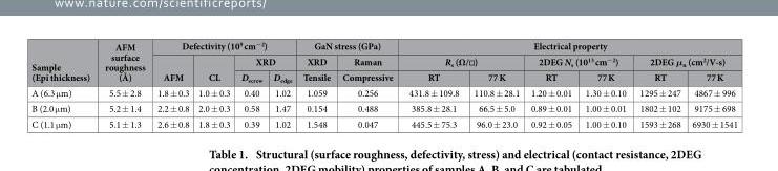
<table><thead><tr><td rowspan="3">Sample (Epi thickness)</td><td rowspan="3">AFM surface roughness (Å)</td><td colspan="4">Defectivity (10<sup>9</sup> cm<sup>−2</sup>)</td><td colspan="2">GaN stress (GPa)</td><td colspan="6">Electrical property</td></tr><tr><td rowspan="2">AFM</td><td rowspan="2">CL</td><td colspan="2">XRD</td><td rowspan="2">XRD Tensile</td><td rowspan="2">Raman Compressive</td><td colspan="2">R<sub>s</sub> (Ω/◽)</td><td colspan="2">2DEG N<sub>s</sub> (10<sup>13</sup> cm<sup>−2</sup>)</td><td colspan="2">2DEG μ<sub>n</sub> (cm<sup>2</sup>/V-s)</td></tr><tr><td>D<sub>screw</sub></td><td>D<sub>edge</sub></td><td>RT</td><td>77 K</td><td>RT</td><td>77 K</td><td>RT</td><td>77 K</td></tr></thead><tbody><tr><td>A (6.3 μ m)</td><td>5.5 ± 2.8</td><td>1.8 ± 0.3</td><td>1.0 ± 0.3</td><td>0.40</td><td>1.02</td><td>1.059</td><td>0.256</td><td>431.8 ± 109.8</td><td>110.8 ± 28.1</td><td>1.20 ± 0.01</td><td>1.30 ± 0.10</td><td>1295 ± 247</td><td>4867 ± 996</td></tr><tr><td>B (2.0 μ m)</td><td>5.2 ± 1.4</td><td>2.2 ± 0.8</td><td>2.0 ± 0.3</td><td>0.58</td><td>1.47</td><td>0.154</td><td>0.488</td><td>385.8 ± 28.1</td><td>66.5 ± 5.0</td><td>0.89 ± 0.01</td><td>1.00 ± 0.01</td><td>1802 ± 102</td><td>9175 ± 698</td></tr><tr><td>C (1.1 μ m)</td><td>5.1 ± 1.3</td><td>2.6 ± 0.8</td><td>1.8 ± 0.3</td><td>0.39</td><td>1.02</td><td>1.548</td><td>0.047</td><td>445.5 ± 75.3</td><td>96.0 ± 23.0</td><td>0.92 ± 0.05</td><td>1.00 ± 0.10</td><td>1593 ± 268</td><td>6930 ± 1541</td></tr></tbody></table>